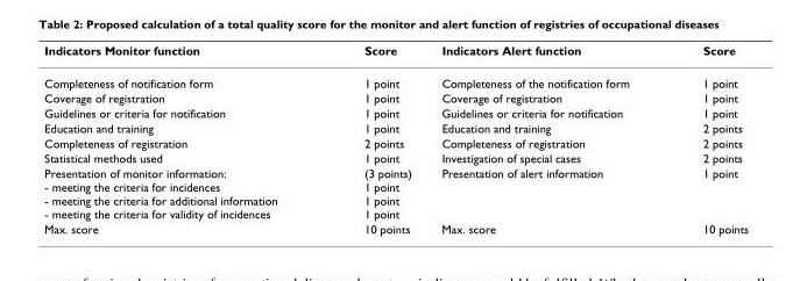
<table><thead><tr><td>Indicators Monitor function</td><td>Score</td><td>Indicators Alert function</td><td>Score</td></tr></thead><tbody><tr><td>Completeness of notification form</td><td>1 point</td><td>Completeness of the notification form</td><td>1 point</td></tr><tr><td>Coverage of registration</td><td>1 point</td><td>Coverage of registration</td><td>1 point</td></tr><tr><td>Guidelines or criteria for notification</td><td>1 point</td><td>Guidelines or criteria for notification</td><td>1 point</td></tr><tr><td>Education and training</td><td>1 point</td><td>Education and training</td><td>2 points</td></tr><tr><td>Completeness of registration</td><td>2 points</td><td>Completeness of registration</td><td>2 points</td></tr><tr><td>Statistical methods used</td><td>1 point</td><td>Investigation of special cases</td><td>2 points</td></tr><tr><td>Presentation of monitor information: - meeting the criteria for incidences - meeting the criteria for additional information - meeting the criteria for validity of incidences</td><td>(3 points) 1 point 1 point 1 point</td><td>Presentation of alert information</td><td>1 point</td></tr><tr><td>Max. score</td><td>10 points</td><td>Max. score</td><td>10 points</td></tr></tbody></table>